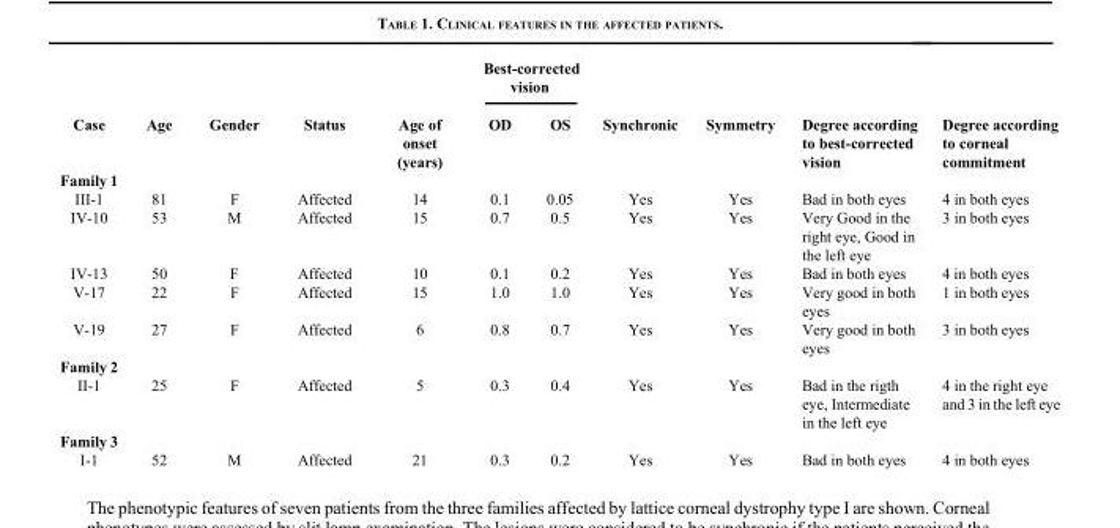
<table><thead><tr><td rowspan="2">Case</td><td rowspan="2">Age</td><td rowspan="2">Gender</td><td rowspan="2">Status</td><td rowspan="2">Age of onset (years)</td><td colspan="2">Best-corrected vision</td><td rowspan="2">Synchronic</td><td rowspan="2">Symmetry</td><td rowspan="2">Degree according to best-corrected vision</td><td rowspan="2">Degree according to corneal commitment</td></tr><tr><td>OD</td><td>OS</td></tr></thead><tbody><tr><td colspan="11">Family 1</td></tr><tr><td>III-1</td><td>81</td><td>F</td><td>Affected</td><td>14</td><td>0.1</td><td>0.05</td><td>Yes</td><td>Yes</td><td>Bad in both eyes</td><td>4 in both eyes</td></tr><tr><td>IV-10</td><td>53</td><td>M</td><td>Affected</td><td>15</td><td>0.7</td><td>0.5</td><td>Yes</td><td>Yes</td><td>Very Good in the right eye, Good in the left eye</td><td>3 in both eyes</td></tr><tr><td>IV-13</td><td>50</td><td>F</td><td>Affected</td><td>10</td><td>0.1</td><td>0.2</td><td>Yes</td><td>Yes</td><td>Bad in both eyes</td><td>4 in both eyes</td></tr><tr><td>V-17</td><td>22</td><td>F</td><td>Affected</td><td>15</td><td>1.0</td><td>1.0</td><td>Yes</td><td>Yes</td><td>Very good in both eyes</td><td>1 in both eyes</td></tr><tr><td>V-19</td><td>27</td><td>F</td><td>Affected</td><td>6</td><td>0.8</td><td>0.7</td><td>Yes</td><td>Yes</td><td>Very good in both eyes</td><td>3 in both eyes</td></tr><tr><td colspan="11">Family 2</td></tr><tr><td>II-1</td><td>25</td><td>F</td><td>Affected</td><td>5</td><td>0.3</td><td>0.4</td><td>Yes</td><td>Yes</td><td>Bad in the rigth eye, Intermediate in the left eye</td><td>4 in the right eye and 3 in the left eye</td></tr><tr><td colspan="11">Family 3</td></tr><tr><td>I-1</td><td>52</td><td>M</td><td>Affected</td><td>21</td><td>0.3</td><td>0.2</td><td>Yes</td><td>Yes</td><td>Bad in both eyes</td><td>4 in both eyes</td></tr></tbody></table>